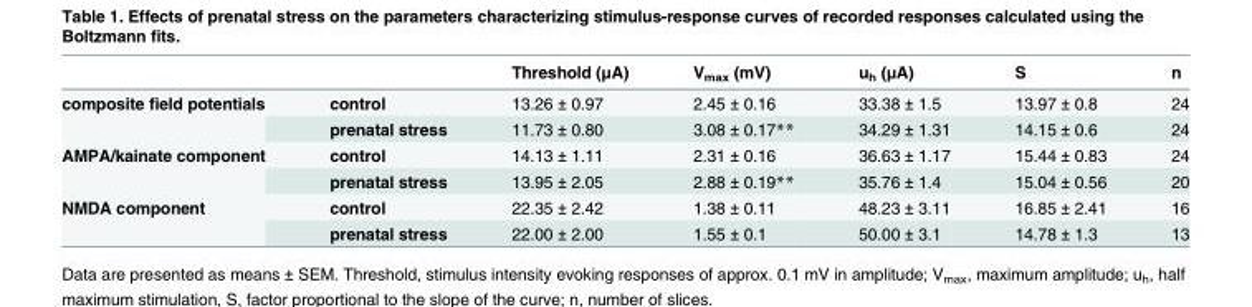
<table><thead><tr><td></td><td></td><td>Threshold (μA)</td><td>V<sub>max</sub> (mV)</td><td>u<sub>h</sub> (μA)</td><td>S</td><td>n</td></tr></thead><tbody><tr><td rowspan="2">composite field potentials</td><td>control</td><td>13.26 ± 0.97</td><td>2.45 ± 0.16</td><td>33.38 ± 1.5</td><td>13.97 ± 0.8</td><td>24</td></tr><tr><td>prenatal stress</td><td>11.73 ± 0.80</td><td>3.08 ± 0.17**</td><td>34.29 ± 1.31</td><td>14.15 ± 0.6</td><td>24</td></tr><tr><td rowspan="2">AMPA/kainate component</td><td>control</td><td>14.13 ± 1.11</td><td>2.31 ± 0.16</td><td>36.63 ± 1.17</td><td>15.44 ± 0.83</td><td>24</td></tr><tr><td>prenatal stress</td><td>13.95 ± 2.05</td><td>2.88 ± 0.19**</td><td>35.76 ± 1.4</td><td>15.04 ± 0.56</td><td>20</td></tr><tr><td rowspan="2">NMDA component</td><td>control</td><td>22.35 ± 2.42</td><td>1.38 ± 0.11</td><td>48.23 ± 3.11</td><td>16.85 ± 2.41</td><td>16</td></tr><tr><td>prenatal stress</td><td>22.00 ± 2.00</td><td>1.55 ± 0.1</td><td>50.00 ± 3.1</td><td>14.78 ± 1.3</td><td>13</td></tr></tbody></table>